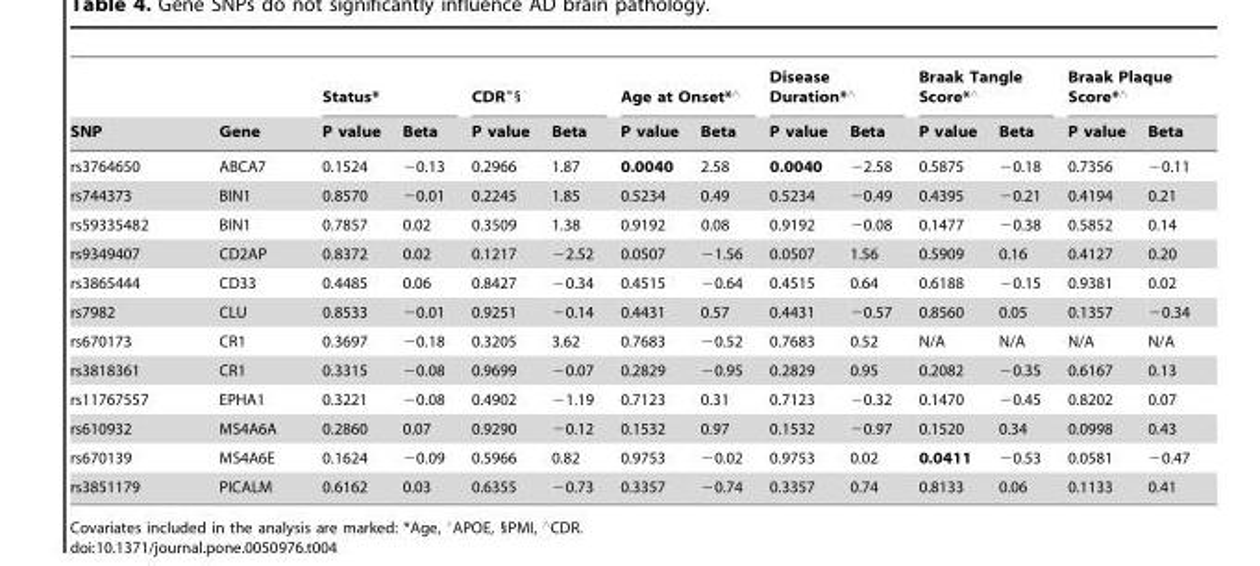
<table><thead><tr><td rowspan="2">SNP</td><td rowspan="2">Gene</td><td colspan="2">Status*</td><td colspan="2">CDR°§</td><td colspan="2">Age at Onset*‘</td><td colspan="2">Disease Duration*‘</td><td colspan="2">Braak Tangle Score*‘</td><td colspan="2">Braak Plaque Score*‘</td></tr><tr><td>P value</td><td>Beta</td><td>P value</td><td>Beta</td><td>P value</td><td>Beta</td><td>P value</td><td>Beta</td><td>P value</td><td>Beta</td><td>P value</td><td>Beta</td></tr></thead><tbody><tr><td>rs3764650</td><td>ABCA7</td><td>0.1524</td><td>−0.13</td><td>0.2966</td><td>1.87</td><td>0.0040</td><td>2.58</td><td>0.0040</td><td>−2.58</td><td>0.5875</td><td>−0.18</td><td>0.7356</td><td>−0.11</td></tr><tr><td>rs744373</td><td>BIN1</td><td>0.8570</td><td>−0.01</td><td>0.2245</td><td>1.85</td><td>0.5234</td><td>0.49</td><td>0.5234</td><td>−0.49</td><td>0.4395</td><td>−0.21</td><td>0.4194</td><td>0.21</td></tr><tr><td>rs59335482</td><td>BIN1</td><td>0.7857</td><td>0.02</td><td>0.3509</td><td>1.38</td><td>0.9192</td><td>0.08</td><td>0.9192</td><td>−0.08</td><td>0.1477</td><td>−0.38</td><td>0.5852</td><td>0.14</td></tr><tr><td>rs9349407</td><td>CD2AP</td><td>0.8372</td><td>0.02</td><td>0.1217</td><td>−2.52</td><td>0.0507</td><td>−1.56</td><td>0.0507</td><td>1.56</td><td>0.5909</td><td>0.16</td><td>0.4127</td><td>0.20</td></tr><tr><td>rs3865444</td><td>CD33</td><td>0.4485</td><td>0.06</td><td>0.8427</td><td>−0.34</td><td>0.4515</td><td>−0.64</td><td>0.4515</td><td>0.64</td><td>0.6188</td><td>−0.15</td><td>0.9381</td><td>0.02</td></tr><tr><td>rs7982</td><td>CLU</td><td>0.8533</td><td>−0.01</td><td>0.9251</td><td>−0.14</td><td>0.4431</td><td>0.57</td><td>0.4431</td><td>−0.57</td><td>0.8560</td><td>0.05</td><td>0.1357</td><td>−0.34</td></tr><tr><td>rs670173</td><td>CR1</td><td>0.3697</td><td>−0.18</td><td>0.3205</td><td>3.62</td><td>0.7683</td><td>−0.52</td><td>0.7683</td><td>0.52</td><td>N/A</td><td>N/A</td><td>N/A</td><td>N/A</td></tr><tr><td>rs3818361</td><td>CR1</td><td>0.3315</td><td>−0.08</td><td>0.9699</td><td>−0.07</td><td>0.2829</td><td>−0.95</td><td>0.2829</td><td>0.95</td><td>0.2082</td><td>−0.35</td><td>0.6167</td><td>0.13</td></tr><tr><td>rs11767557</td><td>EPHA1</td><td>0.3221</td><td>−0.08</td><td>0.4902</td><td>−1.19</td><td>0.7123</td><td>0.31</td><td>0.7123</td><td>−0.32</td><td>0.1470</td><td>−0.45</td><td>0.8202</td><td>0.07</td></tr><tr><td>rs610932</td><td>MS4A6A</td><td>0.2860</td><td>0.07</td><td>0.9290</td><td>−0.12</td><td>0.1532</td><td>0.97</td><td>0.1532</td><td>−0.97</td><td>0.1520</td><td>0.34</td><td>0.0998</td><td>0.43</td></tr><tr><td>rs670139</td><td>MS4A6E</td><td>0.1624</td><td>−0.09</td><td>0.5966</td><td>0.82</td><td>0.9753</td><td>−0.02</td><td>0.9753</td><td>0.02</td><td>0.0411</td><td>−0.53</td><td>0.0581</td><td>−0.47</td></tr><tr><td>rs3851179</td><td>PICALM</td><td>0.6162</td><td>0.03</td><td>0.6355</td><td>−0.73</td><td>0.3357</td><td>−0.74</td><td>0.3357</td><td>0.74</td><td>0.8133</td><td>0.06</td><td>0.1133</td><td>0.41</td></tr></tbody></table>